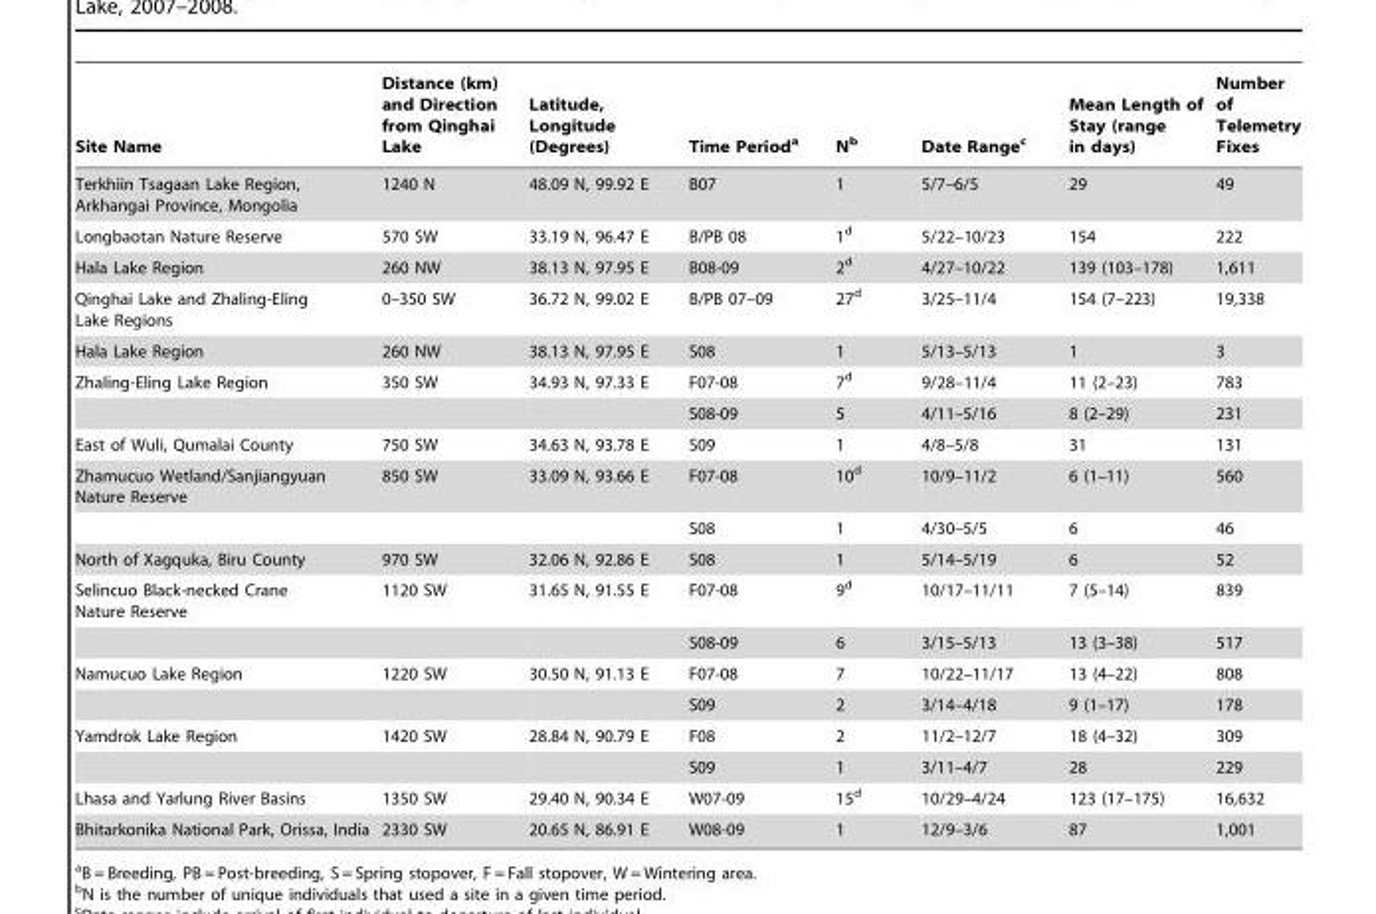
<table><thead><tr><td>Site Name</td><td>Distance (km) and Direction from Qinghai Lake</td><td>Latitude, Longitude (Degrees)</td><td>Time Period<sup>a</sup></td><td>N<sup>b</sup></td><td>Date Range<sup>c</sup></td><td>Mean Length of Stay (range in days)</td><td>Number of Telemetry Fixes</td></tr></thead><tbody><tr><td>Terkhiin Tsagaan Lake Region, Arkhangai Province, Mongolia</td><td>1240 N</td><td>48.09 N, 99.92 E</td><td>B07</td><td>1</td><td>5/7–6/5</td><td>29</td><td>49</td></tr><tr><td>Longbaotan Nature Reserve</td><td>570 SW</td><td>33.19 N, 96.47 E</td><td>B/PB 08</td><td>1<sup>d</sup></td><td>5/22–10/23</td><td>154</td><td>222</td></tr><tr><td>Hala Lake Region</td><td>260 NW</td><td>38.13 N, 97.95 E</td><td>B08-09</td><td>2<sup>d</sup></td><td>4/27–10/22</td><td>139 (103–178)</td><td>1,611</td></tr><tr><td>Qinghai Lake and Zhaling-Eling Lake Regions</td><td>0–350 SW</td><td>36.72 N, 99.02 E</td><td>B/PB 07–09</td><td>27<sup>d</sup></td><td>3/25–11/4</td><td>154 (7–223)</td><td>19,338</td></tr><tr><td>Hala Lake Region</td><td>260 NW</td><td>38.13 N, 97.95 E</td><td>S08</td><td>1</td><td>5/13–5/13</td><td>1</td><td>3</td></tr><tr><td rowspan="2">Zhaling-Eling Lake Region</td><td>350 SW</td><td>34.93 N, 97.33 E</td><td>F07-08</td><td>7<sup>d</sup></td><td>9/28–11/4</td><td>11 (2–23)</td><td>783</td></tr><tr><td></td><td></td><td>S08-09</td><td>5</td><td>4/11–5/16</td><td>8 (2–29)</td><td>231</td></tr><tr><td>East of Wuli, Qumalai County</td><td>750 SW</td><td>34.63 N, 93.78 E</td><td>S09</td><td>1</td><td>4/8–5/8</td><td>31</td><td>131</td></tr><tr><td rowspan="2">Zhamucuo Wetland/Sanjiangyuan Nature Reserve</td><td>850 SW</td><td>33.09 N, 93.66 E</td><td>F07-08</td><td>10<sup>d</sup></td><td>10/9–11/2</td><td>6 (1–11)</td><td>560</td></tr><tr><td></td><td></td><td>S08</td><td>1</td><td>4/30–5/5</td><td>6</td><td>46</td></tr><tr><td>North of Xagquka, Biru County</td><td>970 SW</td><td>32.06 N, 92.86 E</td><td>S08</td><td>1</td><td>5/14–5/19</td><td>6</td><td>52</td></tr><tr><td rowspan="2">Selincuo Black-necked Crane Nature Reserve</td><td>1120 SW</td><td>31.65 N, 91.55 E</td><td>F07-08</td><td>9<sup>d</sup></td><td>10/17–11/11</td><td>7 (5–14)</td><td>839</td></tr><tr><td></td><td></td><td>S08-09</td><td>6</td><td>3/15–5/13</td><td>13 (3–38)</td><td>517</td></tr><tr><td rowspan="2">Namucuo Lake Region</td><td>1220 SW</td><td>30.50 N, 91.13 E</td><td>F07-08</td><td>7</td><td>10/22–11/17</td><td>13 (4–22)</td><td>808</td></tr><tr><td></td><td></td><td>S09</td><td>2</td><td>3/14–4/18</td><td>9 (1–17)</td><td>178</td></tr><tr><td rowspan="2">Yamdrok Lake Region</td><td>1420 SW</td><td>28.84 N, 90.79 E</td><td>F08</td><td>2</td><td>11/2–12/7</td><td>18 (4–32)</td><td>309</td></tr><tr><td></td><td></td><td>S09</td><td>1</td><td>3/11–4/7</td><td>28</td><td>229</td></tr><tr><td>Lhasa and Yarlung River Basins</td><td>1350 SW</td><td>29.40 N, 90.34 E</td><td>W07-09</td><td>15<sup>d</sup></td><td>10/29–4/24</td><td>123 (17–175)</td><td>16,632</td></tr><tr><td>Bhitarkonika National Park, Orissa, India</td><td>2330 SW</td><td>20.65 N, 86.91 E</td><td>W08-09</td><td>1</td><td>12/9–3/6</td><td>87</td><td>1,001</td></tr></tbody></table>